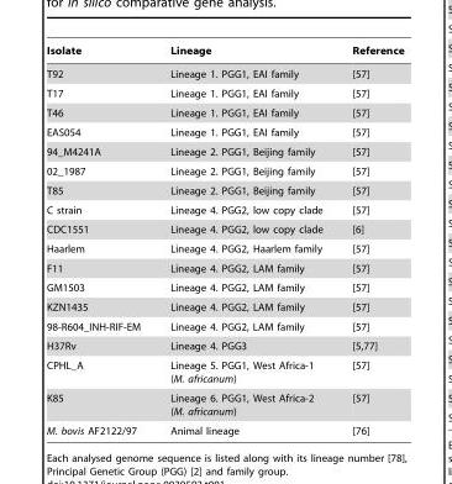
<table><thead><tr><td>Isolate</td><td>Lineage</td><td>Reference</td></tr></thead><tbody><tr><td>T92</td><td>Lineage 1. PGG1, EAI family</td><td>[57]</td></tr><tr><td>T17</td><td>Lineage 1. PGG1, EAI family</td><td>[57]</td></tr><tr><td>T46</td><td>Lineage 1. PGG1, EAI family</td><td>[57]</td></tr><tr><td>EAS054</td><td>Lineage 1. PGG1, EAI family</td><td>[57]</td></tr><tr><td>94_M4241A</td><td>Lineage 2. PGG1, Beijing family</td><td>[57]</td></tr><tr><td>02_1987</td><td>Lineage 2. PGG1, Beijing family</td><td>[57]</td></tr><tr><td>T85</td><td>Lineage 2. PGG1, Beijing family</td><td>[57]</td></tr><tr><td>C strain</td><td>Lineage 4. PGG2, low copy clade</td><td>[57]</td></tr><tr><td>CDC1551</td><td>Lineage 4. PGG2, low copy clade</td><td>[6]</td></tr><tr><td>Haarlem</td><td>Lineage 4. PGG2, Haarlem family</td><td>[57]</td></tr><tr><td>F11</td><td>Lineage 4. PGG2, LAM family</td><td>[57]</td></tr><tr><td>GM1503</td><td>Lineage 4. PGG2, LAM family</td><td>[57]</td></tr><tr><td>KZN1435</td><td>Lineage 4. PGG2, LAM family</td><td>[57]</td></tr><tr><td>98-R604_INH-RIF-EM</td><td>Lineage 4. PGG2, LAM family</td><td>[57]</td></tr><tr><td>H37Rv</td><td>Lineage 4. PGG3</td><td>[5,77]</td></tr><tr><td>CPHL_A</td><td>Lineage 5. PGG1, West Africa-1 (M. africanum)</td><td>[57]</td></tr><tr><td>K85</td><td>Lineage 6. PGG1, West Africa-2 (M. africanum)</td><td>[57]</td></tr><tr><td>M. bovis AF2122/97</td><td>Animal lineage</td><td>[76]</td></tr></tbody></table>